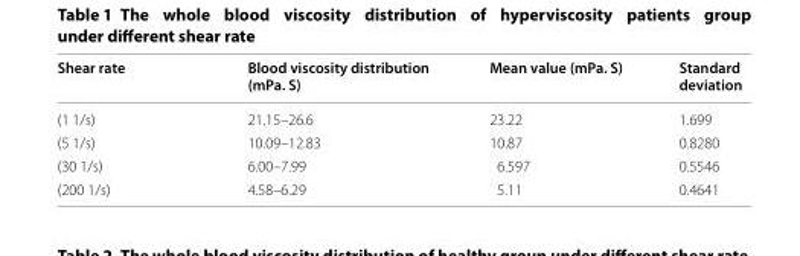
<table><thead><tr><td>Shear rate</td><td>Blood viscosity distribution (mPa. S)</td><td>Mean value (mPa. S)</td><td>Standard deviation</td></tr></thead><tbody><tr><td>(1 1/s)</td><td>21.15–26.6</td><td>23.22</td><td>1.699</td></tr><tr><td>(5 1/s)</td><td>10.09–12.83</td><td>10.87</td><td>0.8280</td></tr><tr><td>(30 1/s)</td><td>6.00–7.99</td><td>6.597</td><td>0.5546</td></tr><tr><td>(200 1/s)</td><td>4.58–6.29</td><td>5.11</td><td>0.4641</td></tr></tbody></table>